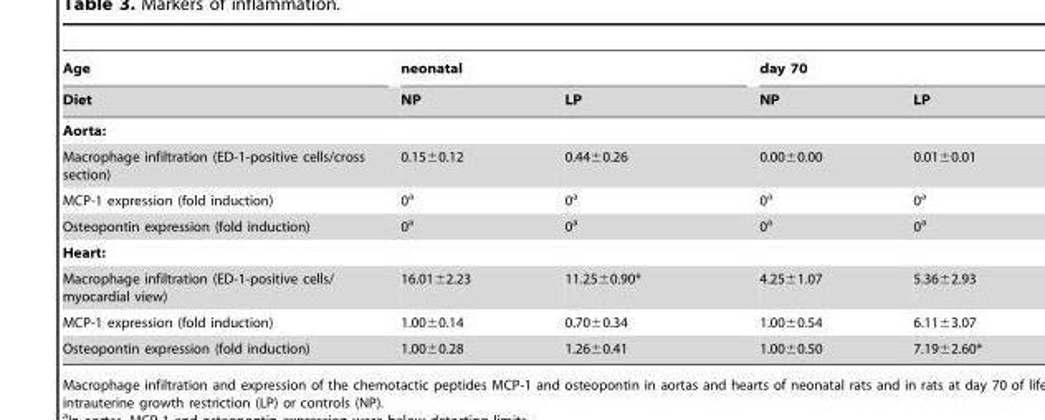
<table><thead><tr><td rowspan="2">Age Diet</td><td colspan="2">neonatal</td><td colspan="2">day 70</td></tr><tr><td>NP</td><td>LP</td><td>NP</td><td>LP</td></tr></thead><tbody><tr><td colspan="5">Aorta:</td></tr><tr><td>Macrophage infiltration (ED-1-positive cells/cross section)</td><td>0.15±0.12</td><td>0.44±0.26</td><td>0.00±0.00</td><td>0.01±0.01</td></tr><tr><td>MCP-1 expression (fold induction)</td><td>0<sup>a</sup></td><td>0<sup>a</sup></td><td>0<sup>a</sup></td><td>0<sup>a</sup></td></tr><tr><td>Osteopontin expression (fold induction)</td><td>0<sup>a</sup></td><td>0<sup>a</sup></td><td>0<sup>a</sup></td><td>0<sup>a</sup></td></tr><tr><td colspan="5">Heart:</td></tr><tr><td>Macrophage infiltration (ED-1-positive cells/ myocardial view)</td><td>16.01±2.23</td><td>11.25±0.90*</td><td>4.25±1.07</td><td>5.36±2.93</td></tr><tr><td>MCP-1 expression (fold induction)</td><td>1.00±0.14</td><td>0.70±0.34</td><td>1.00±0.54</td><td>6.11±3.07</td></tr><tr><td>Osteopontin expression (fold induction)</td><td>1.00±0.28</td><td>1.26±0.41</td><td>1.00±0.50</td><td>7.19±2.60*</td></tr></tbody></table>